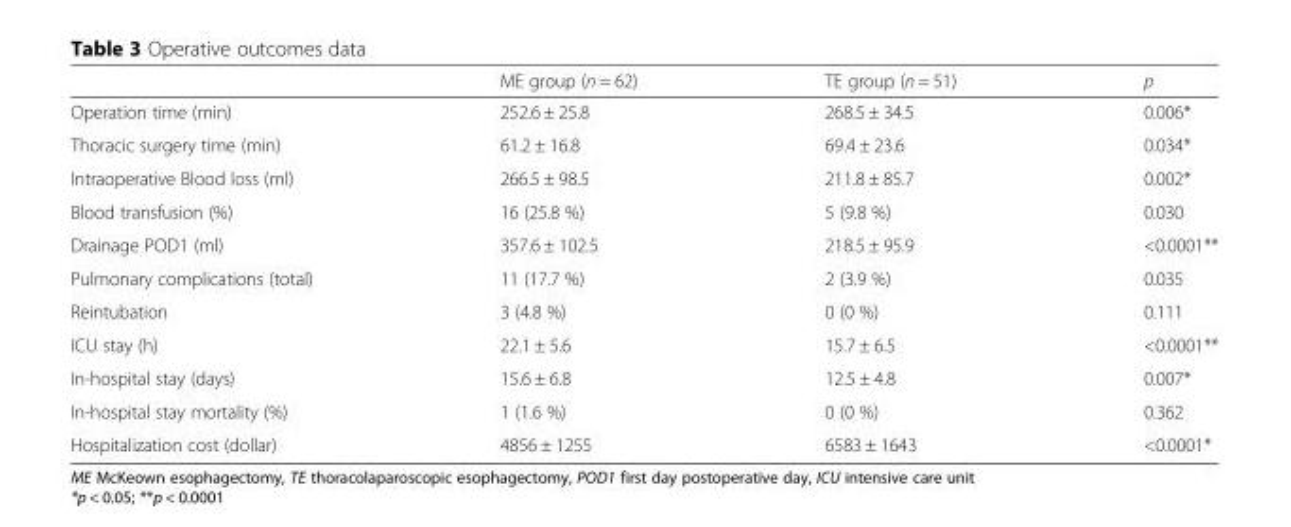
<table><thead><tr><td></td><td>ME group (n = 62)</td><td>TE group (n = 51)</td><td>p</td></tr></thead><tbody><tr><td>Operation time (min)</td><td>252.6 ± 25.8</td><td>268.5 ± 34.5</td><td>0.006*</td></tr><tr><td>Thoracic surgery time (min)</td><td>61.2 ± 16.8</td><td>69.4 ± 23.6</td><td>0.034*</td></tr><tr><td>Intraoperative Blood loss (ml)</td><td>266.5 ± 98.5</td><td>211.8 ± 85.7</td><td>0.002*</td></tr><tr><td>Blood transfusion (%)</td><td>16 (25.8 %)</td><td>5 (9.8 %)</td><td>0.030</td></tr><tr><td>Drainage POD1 (ml)</td><td>357.6 ± 102.5</td><td>218.5 ± 95.9</td><td>&lt;0.0001**</td></tr><tr><td>Pulmonary complications (total)</td><td>11 (17.7 %)</td><td>2 (3.9 %)</td><td>0.035</td></tr><tr><td>Reintubation</td><td>3 (4.8 %)</td><td>0 (0 %)</td><td>0.111</td></tr><tr><td>ICU stay (h)</td><td>22.1 ± 5.6</td><td>15.7 ± 6.5</td><td>&lt;0.0001**</td></tr><tr><td>In-hospital stay (days)</td><td>15.6 ± 6.8</td><td>12.5 ± 4.8</td><td>0.007*</td></tr><tr><td>In-hospital stay mortality (%)</td><td>1 (1.6 %)</td><td>0 (0 %)</td><td>0.362</td></tr><tr><td>Hospitalization cost (dollar)</td><td>4856 ± 1255</td><td>6583 ± 1643</td><td>&lt;0.0001*</td></tr></tbody></table>